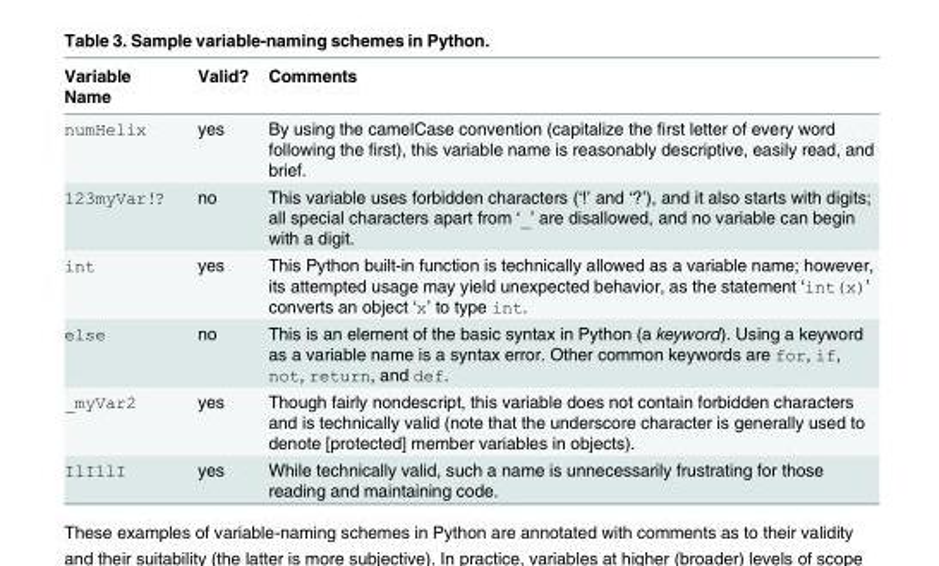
<table><thead><tr><td>Variable Name</td><td>Valid?</td><td>Comments</td></tr></thead><tbody><tr><td>numHelix</td><td>yes</td><td>By using the camelCase convention (capitalize the first letter of every word following the first), this variable name is reasonably descriptive, easily read, and brief.</td></tr><tr><td>123myVar!?</td><td>no</td><td>This variable uses forbidden characters (‘!’ and ‘?’), and it also starts with digits; all special characters apart from ‘_’ are disallowed, and no variable can begin with a digit.</td></tr><tr><td>int</td><td>yes</td><td>This Python built-in function is technically allowed as a variable name; however, its attempted usage may yield unexpected behavior, as the statement ‘int(x)’ converts an object ‘x’ to type int.</td></tr><tr><td>else</td><td>no</td><td>This is an element of the basic syntax in Python (a keyword). Using a keyword as a variable name is a syntax error. Other common keywords are for, if, not, return, and def.</td></tr><tr><td>_myVar2</td><td>yes</td><td>Though fairly nondescript, this variable does not contain forbidden characters and is technically valid (note that the underscore character is generally used to denote [protected] member variables in objects).</td></tr><tr><td>IlI1lI</td><td>yes</td><td>While technically valid, such a name is unnecessarily frustrating for those reading and maintaining code.</td></tr></tbody></table>